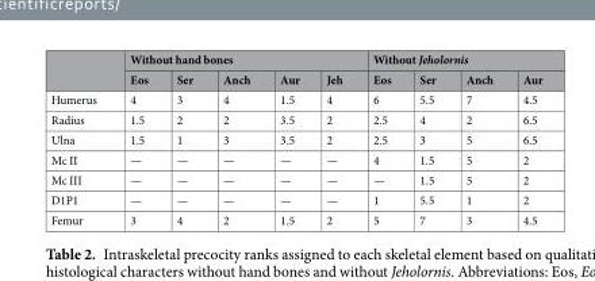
<table><thead><tr><td rowspan="2"></td><td colspan="5">Without hand bones</td><td colspan="4">Without Jeholornis</td></tr><tr><td>Eos</td><td>Ser</td><td>Anch</td><td>Aur</td><td>Jeh</td><td>Eos</td><td>Ser</td><td>Anch</td><td>Aur</td></tr></thead><tbody><tr><td>Humerus</td><td>4</td><td>3</td><td>4</td><td>1.5</td><td>4</td><td>6</td><td>5.5</td><td>7</td><td>4.5</td></tr><tr><td>Radius</td><td>1.5</td><td>2</td><td>2</td><td>3.5</td><td>2</td><td>2.5</td><td>4</td><td>2</td><td>6.5</td></tr><tr><td>Ulna</td><td>1.5</td><td>1</td><td>3</td><td>3.5</td><td>2</td><td>2.5</td><td>3</td><td>5</td><td>6.5</td></tr><tr><td>Mc II</td><td>—</td><td>—</td><td>—</td><td>—</td><td>—</td><td>4</td><td>1.5</td><td>5</td><td>2</td></tr><tr><td>Mc III</td><td>—</td><td>—</td><td>—</td><td>—</td><td>—</td><td>—</td><td>1.5</td><td>5</td><td>2</td></tr><tr><td>D1P1</td><td>—</td><td>—</td><td>—</td><td>—</td><td>—</td><td>1</td><td>5.5</td><td>1</td><td>2</td></tr><tr><td>Femur</td><td>3</td><td>4</td><td>2</td><td>1.5</td><td>2</td><td>5</td><td>7</td><td>3</td><td>4.5</td></tr></tbody></table>